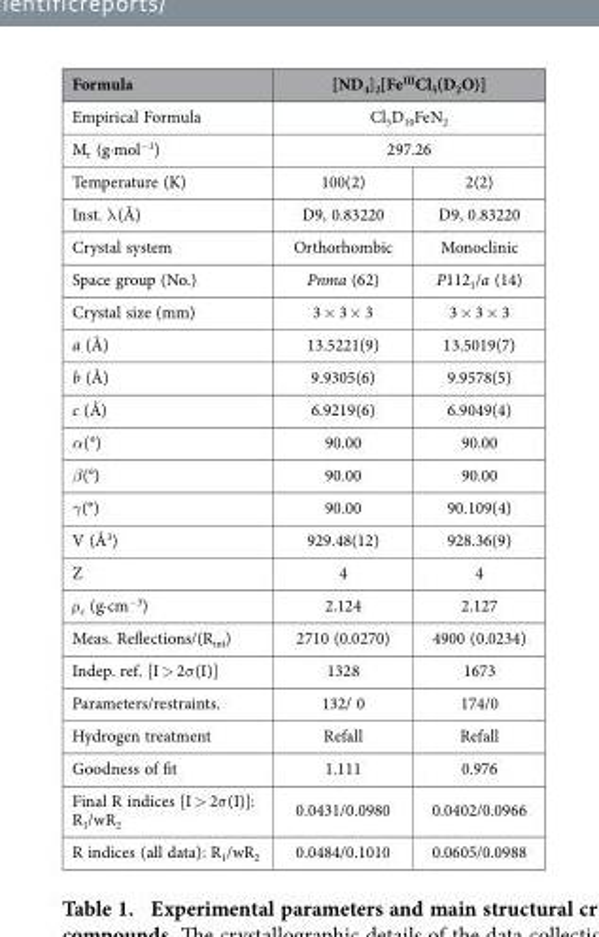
<table><thead><tr><td rowspan="4">Formula Empirical Formula M<sub>r</sub> (g·mol<sup>−1</sup>) Temperature (K)</td><td rowspan="3" colspan="2">[ND<sub>4</sub>]<sub>2</sub>[Fe<sup>III</sup>Cl<sub>5</sub>(D<sub>2</sub>O)] Cl<sub>5</sub>D<sub>10</sub>FeN<sub>2</sub> 297.26</td></tr><tr></tr><tr></tr><tr><td>100(2)</td><td>2(2)</td></tr></thead><tbody><tr><td>Inst. λ (Å)</td><td>D9, 0.83220</td><td>D9, 0.83220</td></tr><tr><td>Crystal system</td><td>Orthorhombic</td><td>Monoclinic</td></tr><tr><td>Space group (No.)</td><td>Pnma (62)</td><td>P112<sub>1</sub>/a (14)</td></tr><tr><td>Crystal size (mm)</td><td>3 × 3 × 3</td><td>3 × 3 × 3</td></tr><tr><td>a (Å)</td><td>13.5221(9)</td><td>13.5019(7)</td></tr><tr><td>b (Å)</td><td>9.9305(6)</td><td>9.9578(5)</td></tr><tr><td>c (Å)</td><td>6.9219(6)</td><td>6.9049(4)</td></tr><tr><td>α (°)</td><td>90.00</td><td>90.00</td></tr><tr><td>β (°)</td><td>90.00</td><td>90.00</td></tr><tr><td>γ (°)</td><td>90.00</td><td>90.109(4)</td></tr><tr><td>V (Å<sup>3</sup>)</td><td>929.48(12)</td><td>928.36(9)</td></tr><tr><td>Z</td><td>4</td><td>4</td></tr><tr><td>ρ <sub>c</sub> (g·cm<sup>−3</sup>)</td><td>2.124</td><td>2.127</td></tr><tr><td>Meas. Reflections/(R<sub>int</sub>)</td><td>2710 (0.0270)</td><td>4900 (0.0234)</td></tr><tr><td>Indep. ref. [I &gt; 2σ (I)]</td><td>1328</td><td>1673</td></tr><tr><td>Parameters/restraints.</td><td>132/ 0</td><td>174/0</td></tr><tr><td>Hydrogen treatment</td><td>Refall</td><td>Refall</td></tr><tr><td>Goodness of fit</td><td>1.111</td><td>0.976</td></tr><tr><td>Final R indices [I &gt; 2σ (I)]: R<sub>1</sub>/wR<sub>2</sub></td><td>0.0431/0.0980</td><td>0.0402/0.0966</td></tr><tr><td>R indices (all data): R<sub>1</sub>/wR<sub>2</sub></td><td>0.0484/0.1010</td><td>0.0605/0.0988</td></tr></tbody></table>